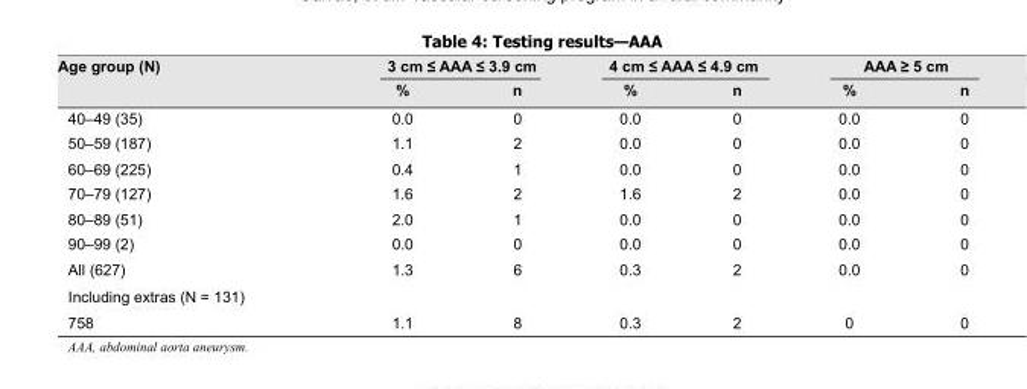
<table><thead><tr><td rowspan="2">Age group (N)</td><td colspan="2">3 cm ≤ AAA ≤ 3.9 cm</td><td colspan="2">4 cm ≤ AAA ≤ 4.9 cm</td><td colspan="2">AAA ≥ 5 cm</td></tr><tr><td>%</td><td>n</td><td>%</td><td>n</td><td>%</td><td>n</td></tr></thead><tbody><tr><td>40–49 (35)</td><td>0.0</td><td>0</td><td>0.0</td><td>0</td><td>0.0</td><td>0</td></tr><tr><td>50–59 (187)</td><td>1.1</td><td>2</td><td>0.0</td><td>0</td><td>0.0</td><td>0</td></tr><tr><td>60–69 (225)</td><td>0.4</td><td>1</td><td>0.0</td><td>0</td><td>0.0</td><td>0</td></tr><tr><td>70–79 (127)</td><td>1.6</td><td>2</td><td>1.6</td><td>2</td><td>0.0</td><td>0</td></tr><tr><td>80–89 (51)</td><td>2.0</td><td>1</td><td>0.0</td><td>0</td><td>0.0</td><td>0</td></tr><tr><td>90–99 (2)</td><td>0.0</td><td>0</td><td>0.0</td><td>0</td><td>0.0</td><td>0</td></tr><tr><td>All (627)</td><td>1.3</td><td>6</td><td>0.3</td><td>2</td><td>0.0</td><td>0</td></tr><tr><td colspan="7">Including extras (N = 131)</td></tr><tr><td>758</td><td>1.1</td><td>8</td><td>0.3</td><td>2</td><td>0</td><td>0</td></tr></tbody></table>